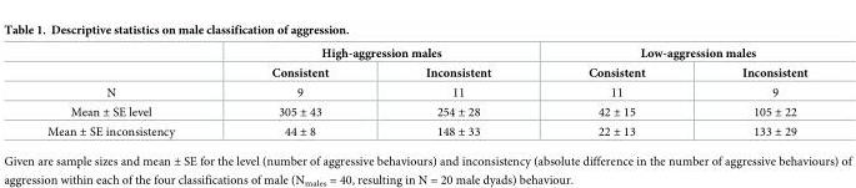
<table><thead><tr><td rowspan="2"></td><td colspan="2">High-aggression males</td><td colspan="2">Low-aggression males</td></tr><tr><td>Consistent</td><td>Inconsistent</td><td>Consistent</td><td>Inconsistent</td></tr></thead><tbody><tr><td>N</td><td>9</td><td>11</td><td>11</td><td>9</td></tr><tr><td>Mean ± SE level</td><td>305 ± 43</td><td>254 ± 28</td><td>42 ± 15</td><td>105 ± 22</td></tr><tr><td>Mean ± SE inconsistency</td><td>44 ± 8</td><td>148 ± 33</td><td>22 ± 13</td><td>133 ± 29</td></tr></tbody></table>